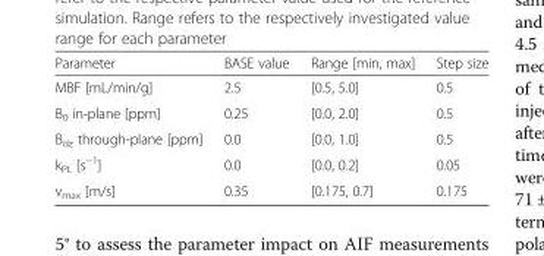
<table><thead><tr><td>Parameter</td><td>BASE value</td><td>Range [min, max]</td><td>Step size</td></tr></thead><tbody><tr><td>MBF [mL/min/g]</td><td>2.5</td><td>[0.5, 5.0]</td><td>0.5</td></tr><tr><td>B<sub>0</sub> in-plane [ppm]</td><td>0.25</td><td>[0.0, 2.0]</td><td>0.5</td></tr><tr><td>B<sub>dz</sub> through-plane [ppm]</td><td>0.0</td><td>[0.0, 1.0]</td><td>0.5</td></tr><tr><td>k<sub>PL</sub> [s<sup>−1</sup>]</td><td>0.0</td><td>[0.0, 0.2]</td><td>0.05</td></tr><tr><td>v<sub>max</sub> [m/s]</td><td>0.35</td><td>[0.175, 0.7]</td><td>0.175</td></tr></tbody></table>